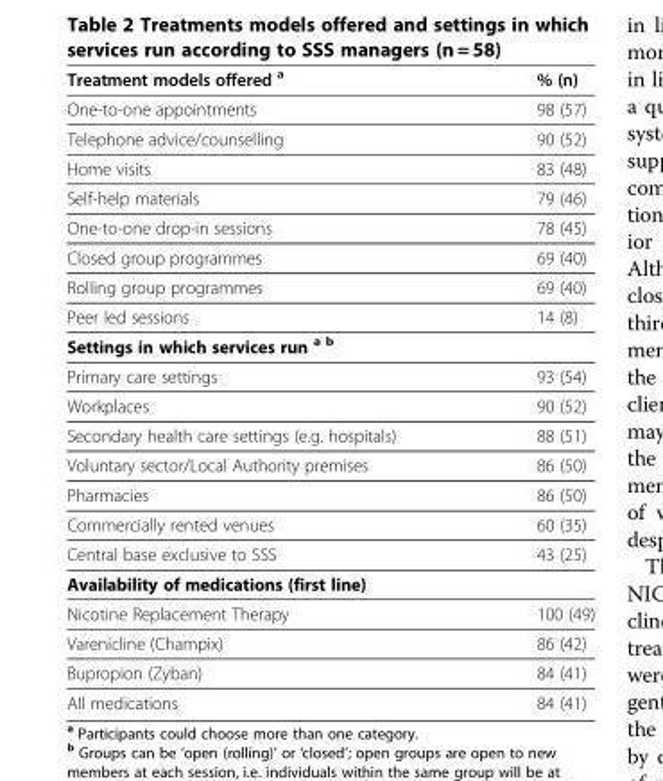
<table><thead><tr><td>Treatment models offered <sup>a</sup></td><td>% (n)</td></tr></thead><tbody><tr><td>One-to-one appointments</td><td>98 (57)</td></tr><tr><td>Telephone advice/counselling</td><td>90 (52)</td></tr><tr><td>Home visits</td><td>83 (48)</td></tr><tr><td>Self-help materials</td><td>79 (46)</td></tr><tr><td>One-to-one drop-in sessions</td><td>78 (45)</td></tr><tr><td>Closed group programmes</td><td>69 (40)</td></tr><tr><td>Rolling group programmes</td><td>69 (40)</td></tr><tr><td>Peer led sessions</td><td>14 (8)</td></tr><tr><td colspan="2">Settings in which services run <sup>a b</sup></td></tr><tr><td>Primary care settings</td><td>93 (54)</td></tr><tr><td>Workplaces</td><td>90 (52)</td></tr><tr><td>Secondary health care settings (e.g. hospitals)</td><td>88 (51)</td></tr><tr><td>Voluntary sector/Local Authority premises</td><td>86 (50)</td></tr><tr><td>Pharmacies</td><td>86 (50)</td></tr><tr><td>Commercially rented venues</td><td>60 (35)</td></tr><tr><td>Central base exclusive to SSS</td><td>43 (25)</td></tr><tr><td colspan="2">Availability of medications (first line)</td></tr><tr><td>Nicotine Replacement Therapy</td><td>100 (49)</td></tr><tr><td>Varenicline (Champix)</td><td>86 (42)</td></tr><tr><td>Bupropion (Zyban)</td><td>84 (41)</td></tr><tr><td>All medications</td><td>84 (41)</td></tr></tbody></table>